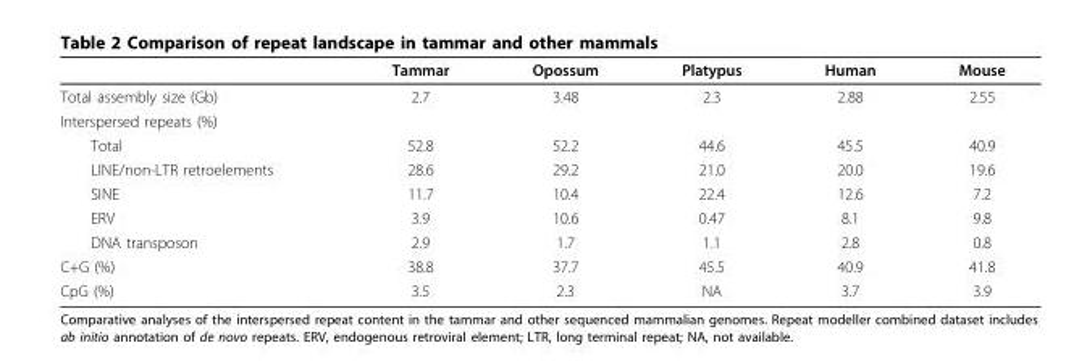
<table><thead><tr><td></td><td>Tammar</td><td>Opossum</td><td>Platypus</td><td>Human</td><td>Mouse</td></tr></thead><tbody><tr><td>Total assembly size (Gb)</td><td>2.7</td><td>3.48</td><td>2.3</td><td>2.88</td><td>2.55</td></tr><tr><td colspan="6">Interspersed repeats (%)</td></tr><tr><td>Total</td><td>52.8</td><td>52.2</td><td>44.6</td><td>45.5</td><td>40.9</td></tr><tr><td>LINE/non-LTR retroelements</td><td>28.6</td><td>29.2</td><td>21.0</td><td>20.0</td><td>19.6</td></tr><tr><td>SINE</td><td>11.7</td><td>10.4</td><td>22.4</td><td>12.6</td><td>7.2</td></tr><tr><td>ERV</td><td>3.9</td><td>10.6</td><td>0.47</td><td>8.1</td><td>9.8</td></tr><tr><td>DNA transposon</td><td>2.9</td><td>1.7</td><td>1.1</td><td>2.8</td><td>0.8</td></tr><tr><td>C+G (%)</td><td>38.8</td><td>37.7</td><td>45.5</td><td>40.9</td><td>41.8</td></tr><tr><td>CpG (%)</td><td>3.5</td><td>2.3</td><td>NA</td><td>3.7</td><td>3.9</td></tr></tbody></table>